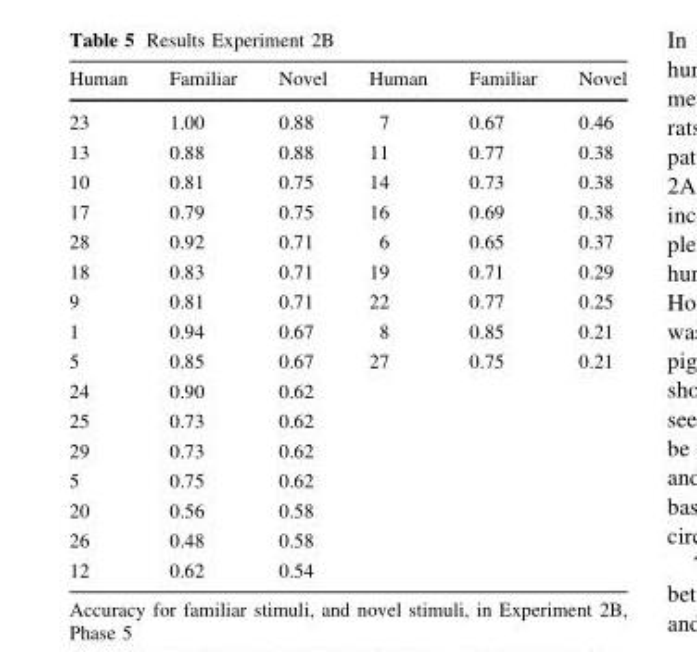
<table><thead><tr><td>Human</td><td>Familiar</td><td>Novel</td><td>Human</td><td>Familiar</td><td>Novel</td></tr></thead><tbody><tr><td>23</td><td>1.00</td><td>0.88</td><td>7</td><td>0.67</td><td>0.46</td></tr><tr><td>13</td><td>0.88</td><td>0.88</td><td>11</td><td>0.77</td><td>0.38</td></tr><tr><td>10</td><td>0.81</td><td>0.75</td><td>14</td><td>0.73</td><td>0.38</td></tr><tr><td>17</td><td>0.79</td><td>0.75</td><td>16</td><td>0.69</td><td>0.38</td></tr><tr><td>28</td><td>0.92</td><td>0.71</td><td>6</td><td>0.65</td><td>0.37</td></tr><tr><td>18</td><td>0.83</td><td>0.71</td><td>19</td><td>0.71</td><td>0.29</td></tr><tr><td>9</td><td>0.81</td><td>0.71</td><td>22</td><td>0.77</td><td>0.25</td></tr><tr><td>1</td><td>0.94</td><td>0.67</td><td>8</td><td>0.85</td><td>0.21</td></tr><tr><td>5</td><td>0.85</td><td>0.67</td><td>27</td><td>0.75</td><td>0.21</td></tr><tr><td>24</td><td>0.90</td><td>0.62</td><td></td><td></td><td></td></tr><tr><td>25</td><td>0.73</td><td>0.62</td><td></td><td></td><td></td></tr><tr><td>29</td><td>0.73</td><td>0.62</td><td></td><td></td><td></td></tr><tr><td>5</td><td>0.75</td><td>0.62</td><td></td><td></td><td></td></tr><tr><td>20</td><td>0.56</td><td>0.58</td><td></td><td></td><td></td></tr><tr><td>26</td><td>0.48</td><td>0.58</td><td></td><td></td><td></td></tr><tr><td>12</td><td>0.62</td><td>0.54</td><td></td><td></td><td></td></tr></tbody></table>